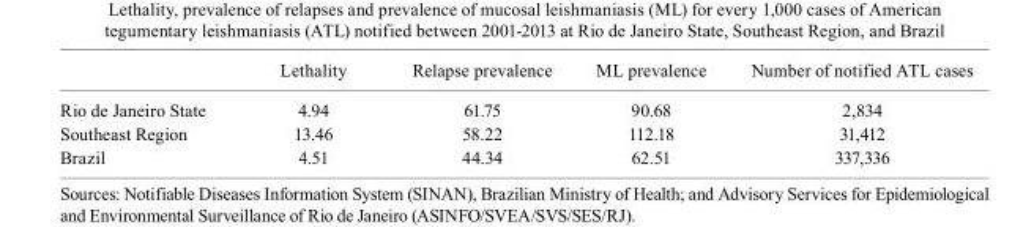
<table><thead><tr><td></td><td>Lethality</td><td>Relapse prevalence</td><td>ML prevalence</td><td>Number of notified ATL cases</td></tr></thead><tbody><tr><td>Rio de Janeiro State</td><td>4.94</td><td>61.75</td><td>90.68</td><td>2,834</td></tr><tr><td>Southeast Region</td><td>13.46</td><td>58.22</td><td>112.18</td><td>31,412</td></tr><tr><td>Brazil</td><td>4.51</td><td>44.34</td><td>62.51</td><td>337,336</td></tr></tbody></table>